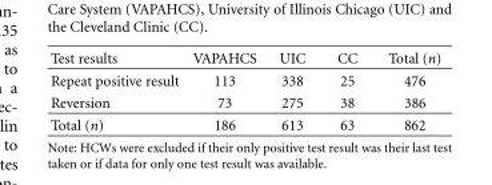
<table><thead><tr><td>Test results</td><td>VAPAHCS</td><td>UIC</td><td>CC</td><td>Total (n)</td></tr></thead><tbody><tr><td>Repeat positive result</td><td>113</td><td>338</td><td>25</td><td>476</td></tr><tr><td>Reversion</td><td>73</td><td>275</td><td>38</td><td>386</td></tr><tr><td>Total (n)</td><td>186</td><td>613</td><td>63</td><td>862</td></tr></tbody></table>